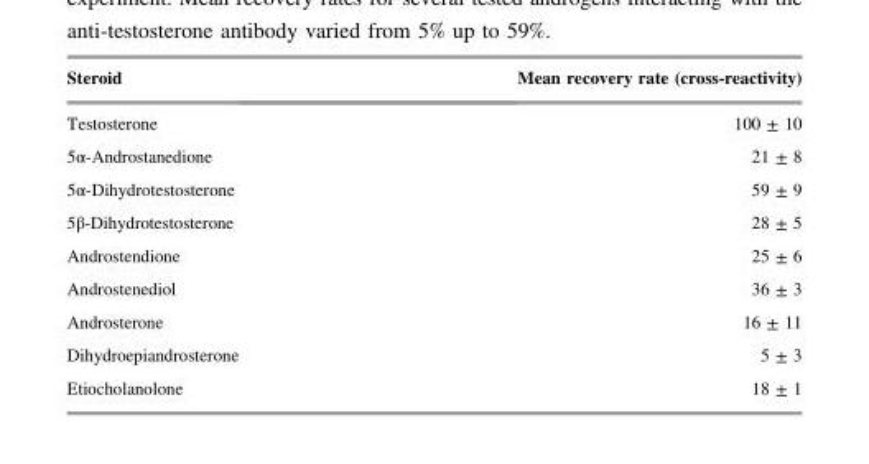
<table><thead><tr><td>Steroid</td><td>Mean recovery rate (cross-reactivity)</td></tr></thead><tbody><tr><td>Testosterone</td><td>100 ± 10</td></tr><tr><td>5α-Androstanedione</td><td>21 ± 8</td></tr><tr><td>5α-Dihydrotestosterone</td><td>59 ± 9</td></tr><tr><td>5β-Dihydrotestosterone</td><td>28 ± 5</td></tr><tr><td>Androstendione</td><td>25 ± 6</td></tr><tr><td>Androstenediol</td><td>36 ± 3</td></tr><tr><td>Androsterone</td><td>16 ± 11</td></tr><tr><td>Dihydroepiandrosterone</td><td>5 ± 3</td></tr><tr><td>Etiocholanolone</td><td>18 ± 1</td></tr></tbody></table>